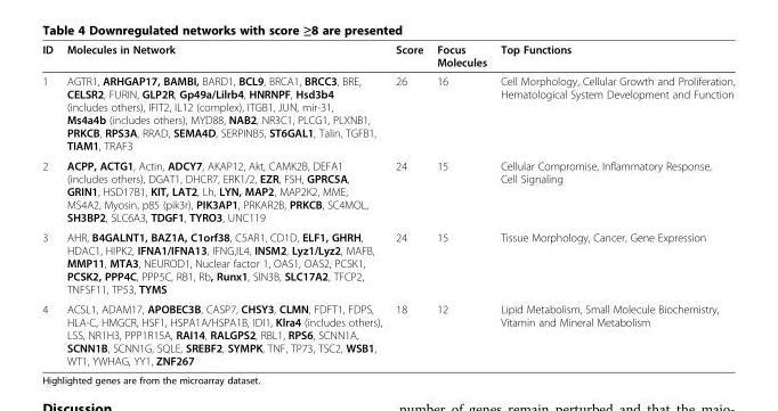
<table><thead><tr><td>ID</td><td>Molecules in Network</td><td>Score</td><td>Focus Molecules</td><td>Top Functions</td></tr></thead><tbody><tr><td>1</td><td>AGTR1, ARHGAP17, BAMBI, BARD1, BCL9, BRCA1, BRCC3, BRE, CELSR2, FURIN, GLP2R, Gp49a/Lilrb4, HNRNPF, Hsd3b4 (includes others), IFIT2, IL12 (complex), ITGB1, JUN, mir-31, Ms4a4b (includes others), MYD88, NAB2, NR3C1, PLCG1, PLXNB1, PRKCB, RPS3A, RRAD, SEMA4D, SERPINB5, ST6GAL1, Talin, TGFB1, TIAM1, TRAF3</td><td>26</td><td>16</td><td>Cell Morphology, Cellular Growth and Proliferation, Hematological System Development and Function</td></tr><tr><td>2</td><td>ACPP, ACTG1, Actin, ADCY7, AKAP12, Akt, CAMK2B, DEFA1 (includes others), DGAT1, DHCR7, ERK1/2, EZR, FSH, GPRC5A, GRIN1, HSD17B1, KIT, LAT2, Lh, LYN, MAP2, MAP2K2, MME, MS4A2, Myosin, p85 (pik3r), PIK3AP1, PRKAR2B, PRKCB, SC4MOL, SH3BP2, SLC6A3, TDGF1, TYRO3, UNC119</td><td>24</td><td>15</td><td>Cellular Compromise, Inflammatory Response, Cell Signaling</td></tr><tr><td>3</td><td>AHR, B4GALNT1, BAZ1A, C1orf38, C5AR1, CD1D, ELF1, GHRH, HDAC1, HIPK2, IFNA1/IFNA13, IFNG,IL4, INSM2, Lyz1/Lyz2, MAFB, MMP11, MTA3, NEUROD1, Nuclear factor 1, OAS1, OAS2, PCSK1, PCSK2, PPP4C, PPP5C, RB1, Rb, Runx1, SIN3B, SLC17A2, TFCP2, TNFSF11, TP53, TYMS</td><td>24</td><td>15</td><td>Tissue Morphology, Cancer, Gene Expression</td></tr><tr><td>4</td><td>ACSL1, ADAM17, APOBEC3B, CASP7, CHSY3, CLMN, FDFT1, FDPS, HLA-C, HMGCR, HSF1, HSPA1A/HSPA1B, IDI1, Klra4 (includes others), LSS, NR1H3, PPP1R15A, RAI14, RALGPS2, RBL1, RPS6, SCNN1A, SCNN1B, SCNN1G, SQLE, SREBF2, SYMPK, TNF, TP73, TSC2, WSB1, WT1, YWHAG, YY1, ZNF267</td><td>18</td><td>12</td><td>Lipid Metabolism, Small Molecule Biochemistry, Vitamin and Mineral Metabolism</td></tr></tbody></table>